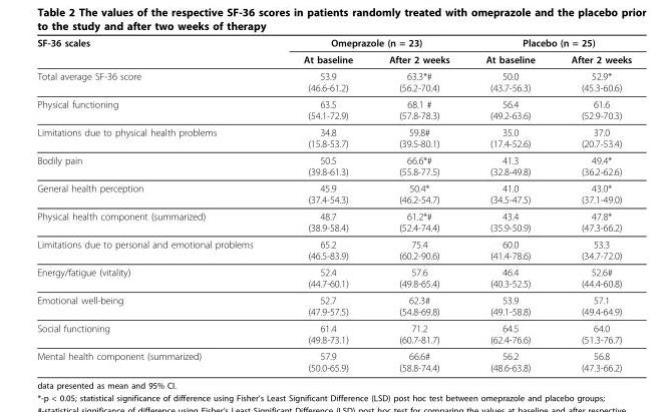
<table><thead><tr><td rowspan="2">SF-36 scales</td><td colspan="2">Omeprazole (n = 23)</td><td colspan="2">Placebo (n = 25)</td></tr><tr><td>At baseline</td><td>After 2 weeks</td><td>At baseline</td><td>After 2 weeks</td></tr></thead><tbody><tr><td>Total average SF-36 score</td><td>53.9 (46.6-61.2)</td><td>63.3*# (56.2-70.4)</td><td>50.0 (43.7-56.3)</td><td>52.9* (45.3-60.6)</td></tr><tr><td>Physical functioning</td><td>63.5 (54.1-72.9)</td><td>68.1 # (57.8-78.3)</td><td>56.4 (49.2-63.6)</td><td>61.6 (52.9-70.3)</td></tr><tr><td>Limitations due to physical health problems</td><td>34.8 (15.8-53.7)</td><td>59.8# (39.5-80.1)</td><td>35.0 (17.4-52.6)</td><td>37.0 (20.7-53.4)</td></tr><tr><td>Bodily pain</td><td>50.5 (39.8-61.3)</td><td>66.6*# (55.8-77.5)</td><td>41.3 (32.8-49.8)</td><td>49.4* (36.2-62.6)</td></tr><tr><td>General health perception</td><td>45.9 (37.4-54.3)</td><td>50.4* (46.2-54.7)</td><td>41.0 (34.5-47.5)</td><td>43.0* (37.1-49.0)</td></tr><tr><td>Physical health component (summarized)</td><td>48.7 (38.9-58.4)</td><td>61.2*# (52.4-74.4)</td><td>43.4 (35.9-50.9)</td><td>47.8* (47.3-66.2)</td></tr><tr><td>Limitations due to personal and emotional problems</td><td>65.2 (46.5-83.9)</td><td>75.4 (60.2-90.6)</td><td>60.0 (41.4-78.6)</td><td>53.3 (34.7-72.0)</td></tr><tr><td>Energy/fatigue (vitality)</td><td>52.4 (44.7-60.1)</td><td>57.6 (49.8-65.4)</td><td>46.4 (40.3-52.5)</td><td>52.6# (44.4-60.8)</td></tr><tr><td>Emotional well-being</td><td>52.7 (47.9-57.5)</td><td>62.3# (54.8-69.8)</td><td>53.9 (49.1-58.8)</td><td>57.1 (49.4-64.9)</td></tr><tr><td>Social functioning</td><td>61.4 (49.8-73.1)</td><td>71.2 (60.7-81.7)</td><td>64.5 (62.4-76.6)</td><td>64.0 (51.3-76.7)</td></tr><tr><td>Mental health component (summarized)</td><td>57.9 (50.0-65.9)</td><td>66.6# (58.8-74.4)</td><td>56.2 (48.6-63.8)</td><td>56.8 (47.3-66.2)</td></tr></tbody></table>